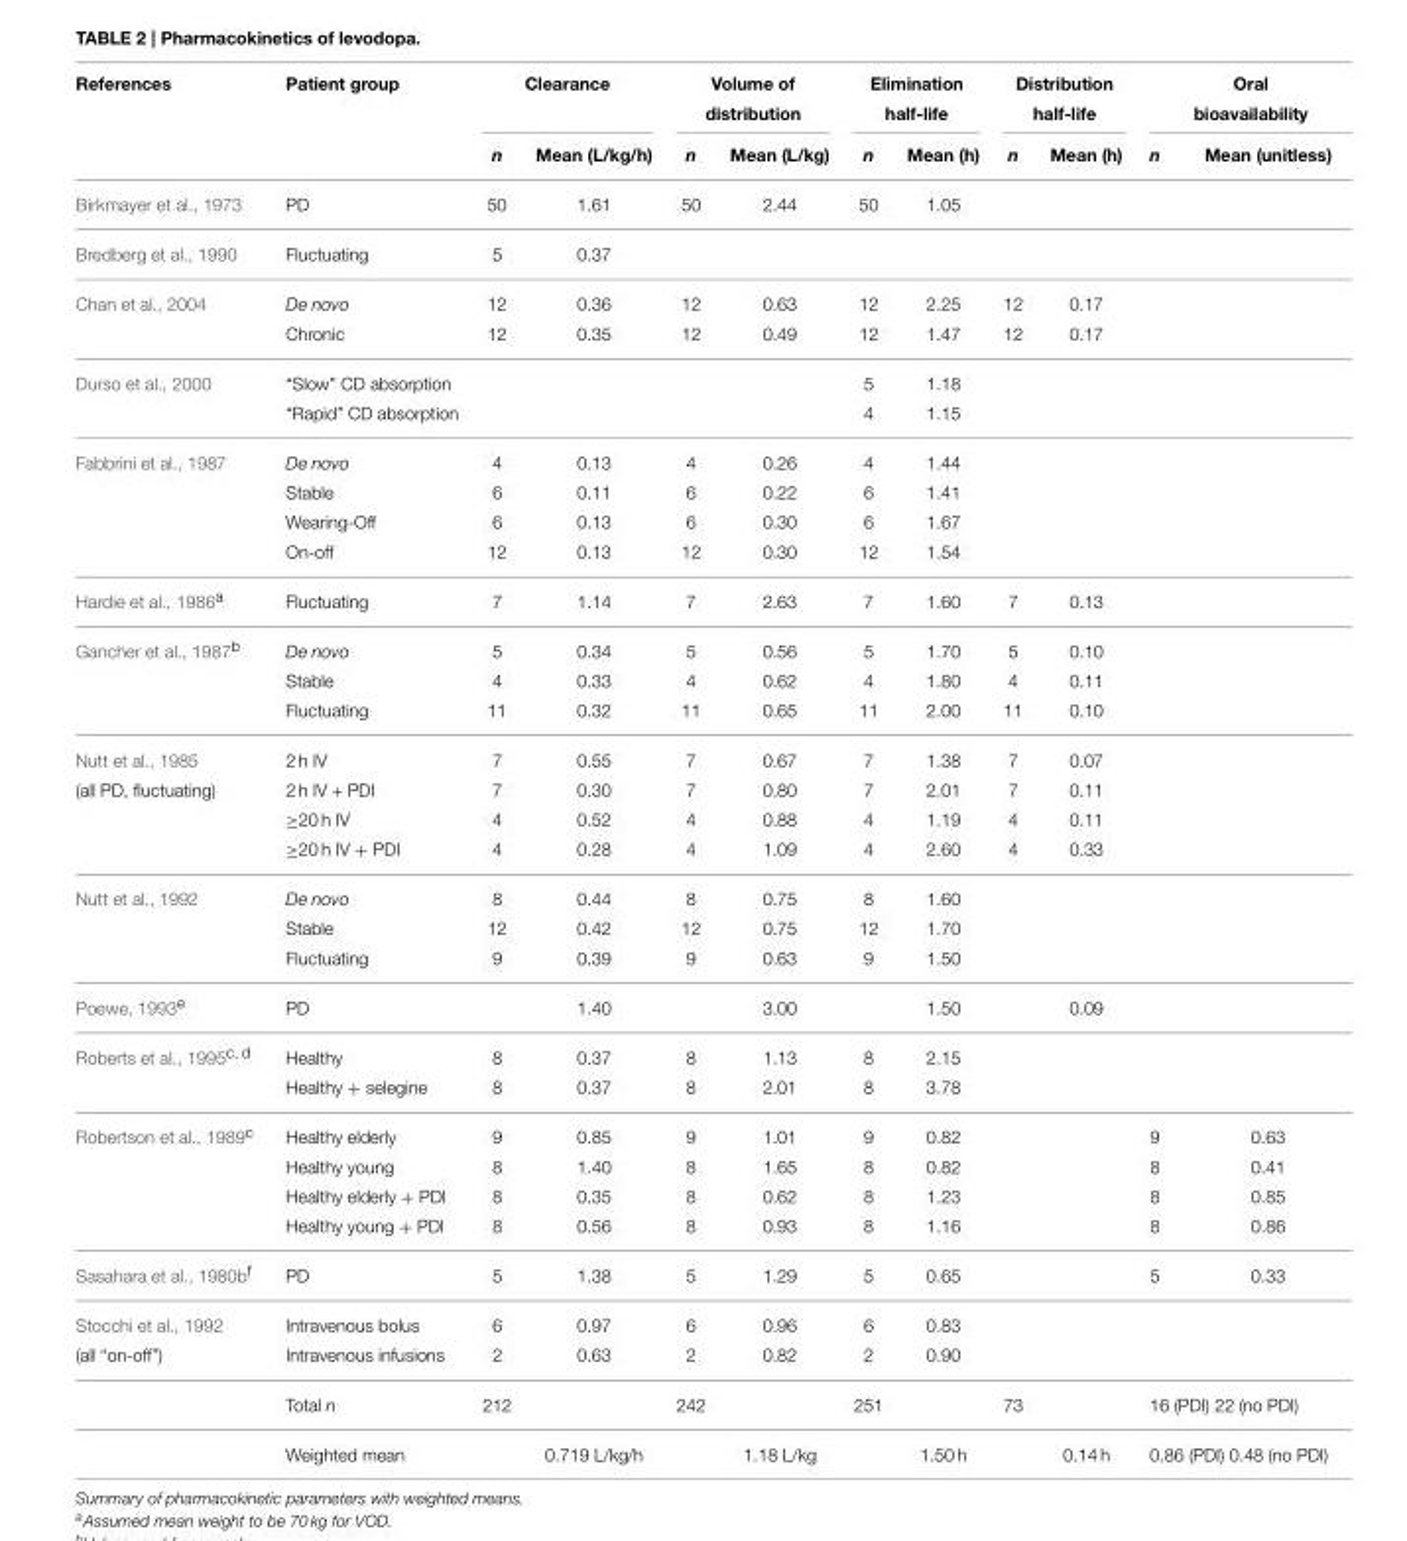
<table><thead><tr><td rowspan="2">References</td><td rowspan="2">Patient group</td><td colspan="2">Clearance</td><td colspan="2">Volume of distribution</td><td colspan="2">Elimination half-life</td><td colspan="2">Distribution half-life</td><td colspan="2">Oral bioavailability</td></tr><tr><td>n</td><td>Mean (L/kg/h)</td><td>n</td><td>Mean (L/kg)</td><td>n</td><td>Mean (h)</td><td>n</td><td>Mean (h)</td><td>n</td><td>Mean (unitless)</td></tr></thead><tbody><tr><td>Birkmayer et al., 1973</td><td>PD</td><td>50</td><td>1.61</td><td>50</td><td>2.44</td><td>50</td><td>1.05</td><td></td><td></td><td></td><td></td></tr><tr><td>Bredberg et al., 1990</td><td>Fluctuating</td><td>5</td><td>0.37</td><td></td><td></td><td></td><td></td><td></td><td></td><td></td><td></td></tr><tr><td rowspan="2">Chan et al., 2004</td><td>De novo</td><td>12</td><td>0.36</td><td>12</td><td>0.63</td><td>12</td><td>2.25</td><td>12</td><td>0.17</td><td></td><td></td></tr><tr><td>Chronic</td><td>12</td><td>0.35</td><td>12</td><td>0.49</td><td>12</td><td>1.47</td><td>12</td><td>0.17</td><td></td><td></td></tr><tr><td rowspan="2">Durso et al., 2000</td><td>“Slow” CD absorption</td><td></td><td></td><td></td><td></td><td>5</td><td>1.18</td><td></td><td></td><td></td><td></td></tr><tr><td>“Rapid” CD absorption</td><td></td><td></td><td></td><td></td><td>4</td><td>1.15</td><td></td><td></td><td></td><td></td></tr><tr><td rowspan="4">Fabbrini et al., 1987</td><td>De novo</td><td>4</td><td>0.13</td><td>4</td><td>0.26</td><td>4</td><td>1.44</td><td></td><td></td><td></td><td></td></tr><tr><td>Stable</td><td>6</td><td>0.11</td><td>6</td><td>0.22</td><td>6</td><td>1.41</td><td></td><td></td><td></td><td></td></tr><tr><td>Wearing-Off</td><td>6</td><td>0.13</td><td>6</td><td>0.30</td><td>6</td><td>1.67</td><td></td><td></td><td></td><td></td></tr><tr><td>On-off</td><td>12</td><td>0.13</td><td>12</td><td>0.30</td><td>12</td><td>1.54</td><td></td><td></td><td></td><td></td></tr><tr><td>Hardie et al., 1986<sup>a</sup></td><td>Fluctuating</td><td>7</td><td>1.14</td><td>7</td><td>2.63</td><td>7</td><td>1.60</td><td>7</td><td>0.13</td><td></td><td></td></tr><tr><td rowspan="3">Gancher et al., 1987<sup>b</sup></td><td>De novo</td><td>5</td><td>0.34</td><td>5</td><td>0.56</td><td>5</td><td>1.70</td><td>5</td><td>0.10</td><td></td><td></td></tr><tr><td>Stable</td><td>4</td><td>0.33</td><td>4</td><td>0.62</td><td>4</td><td>1.80</td><td>4</td><td>0.11</td><td></td><td></td></tr><tr><td>Fluctuating</td><td>11</td><td>0.32</td><td>11</td><td>0.65</td><td>11</td><td>2.00</td><td>11</td><td>0.10</td><td></td><td></td></tr><tr><td>Nutt et al., 1985</td><td>2 h IV</td><td>7</td><td>0.55</td><td>7</td><td>0.67</td><td>7</td><td>1.38</td><td>7</td><td>0.07</td><td></td><td></td></tr><tr><td rowspan="3">(all PD, fluctuating)</td><td>2 h IV + PDI</td><td>7</td><td>0.30</td><td>7</td><td>0.80</td><td>7</td><td>2.01</td><td>7</td><td>0.11</td><td></td><td></td></tr><tr><td>≥20 h IV</td><td>4</td><td>0.52</td><td>4</td><td>0.88</td><td>4</td><td>1.19</td><td>4</td><td>0.11</td><td></td><td></td></tr><tr><td>≥20 h IV + PDI</td><td>4</td><td>0.28</td><td>4</td><td>1.09</td><td>4</td><td>2.60</td><td>4</td><td>0.33</td><td></td><td></td></tr><tr><td rowspan="3">Nutt et al., 1992</td><td>De novo</td><td>8</td><td>0.44</td><td>8</td><td>0.75</td><td>8</td><td>1.60</td><td></td><td></td><td></td><td></td></tr><tr><td>Stable</td><td>12</td><td>0.42</td><td>12</td><td>0.75</td><td>12</td><td>1.70</td><td></td><td></td><td></td><td></td></tr><tr><td>Fluctuating</td><td>9</td><td>0.39</td><td>9</td><td>0.63</td><td>9</td><td>1.50</td><td></td><td></td><td></td><td></td></tr><tr><td>Poewe, 1993<sup>e</sup></td><td>PD</td><td></td><td>1.40</td><td></td><td>3.00</td><td></td><td>1.50</td><td></td><td>0.09</td><td></td><td></td></tr><tr><td rowspan="2">Roberts et al., 1995<sup>c</sup>, <sup>d</sup></td><td>Healthy</td><td>8</td><td>0.37</td><td>8</td><td>1.13</td><td>8</td><td>2.15</td><td></td><td></td><td></td><td></td></tr><tr><td>Healthy + selegine</td><td>8</td><td>0.37</td><td>8</td><td>2.01</td><td>8</td><td>3.78</td><td></td><td></td><td></td><td></td></tr><tr><td rowspan="4">Robertson et al., 1989<sup>c</sup></td><td>Healthy elderly</td><td>9</td><td>0.85</td><td>9</td><td>1.01</td><td>9</td><td>0.82</td><td></td><td></td><td>9</td><td>0.63</td></tr><tr><td>Healthy young</td><td>8</td><td>1.40</td><td>8</td><td>1.65</td><td>8</td><td>0.82</td><td></td><td></td><td>8</td><td>0.41</td></tr><tr><td>Healthy elderly + PDI</td><td>8</td><td>0.35</td><td>8</td><td>0.62</td><td>8</td><td>1.23</td><td></td><td></td><td>8</td><td>0.85</td></tr><tr><td>Healthy young + PDI</td><td>8</td><td>0.56</td><td>8</td><td>0.93</td><td>8</td><td>1.16</td><td></td><td></td><td>8</td><td>0.86</td></tr><tr><td>Sasahara et al., 1980b<sup>f</sup></td><td>PD</td><td>5</td><td>1.38</td><td>5</td><td>1.29</td><td>5</td><td>0.65</td><td></td><td></td><td>5</td><td>0.33</td></tr><tr><td>Stocchi et al., 1992</td><td>Intravenous bolus</td><td>6</td><td>0.97</td><td>6</td><td>0.96</td><td>6</td><td>0.83</td><td></td><td></td><td></td><td></td></tr><tr><td rowspan="3">(all “on-off”)</td><td>Intravenous infusions</td><td>2</td><td>0.63</td><td>2</td><td>0.82</td><td>2</td><td>0.90</td><td></td><td></td><td></td><td></td></tr><tr><td>Total n</td><td>212</td><td></td><td>242</td><td></td><td>251</td><td></td><td>73</td><td></td><td colspan="2">16 (PDI) 22 (no PDI)</td></tr><tr><td>Weighted mean</td><td></td><td>0.719 L/kg/h</td><td></td><td>1.18 L/kg</td><td></td><td>1.50 h</td><td></td><td>0.14 h</td><td colspan="2">0.86 (PDI) 0.48 (no PDI)</td></tr></tbody></table>